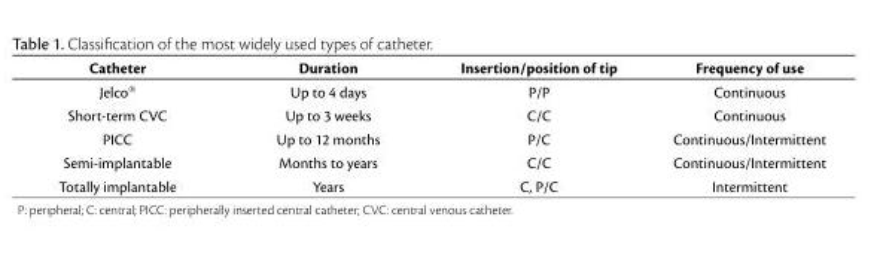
<table><thead><tr><td>Catheter</td><td>Duration</td><td>Insertion/position of tip</td><td>Frequency of use</td></tr></thead><tbody><tr><td>Jelco®</td><td>Up to 4 days</td><td>P/P</td><td>Continuous</td></tr><tr><td>Short-term CVC</td><td>Up to 3 weeks</td><td>C/C</td><td>Continuous</td></tr><tr><td>PICC</td><td>Up to 12 months</td><td>P/C</td><td>Continuous/Intermittent</td></tr><tr><td>Semi-implantable</td><td>Months to years</td><td>C/C</td><td>Continuous/Intermittent</td></tr><tr><td>Totally implantable</td><td>Years</td><td>C, P/C</td><td>Intermittent</td></tr></tbody></table>